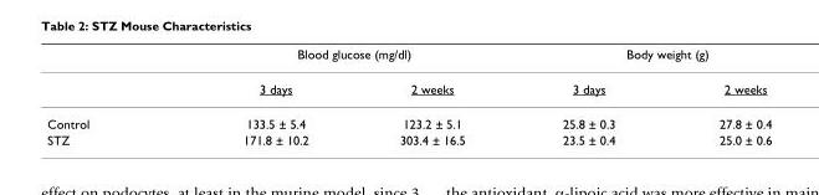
<table><thead><tr><td rowspan="2"></td><td colspan="2">Blood glucose (mg/dl)</td><td colspan="2">Body weight (g)</td></tr><tr><td>3 days</td><td>2 weeks</td><td>3 days</td><td>2 weeks</td></tr></thead><tbody><tr><td>Control</td><td>133.5 ± 5.4</td><td>123.2 ± 5.1</td><td>25.8 ± 0.3</td><td>27.8 ± 0.4</td></tr><tr><td>STZ</td><td>171.8 ± 10.2</td><td>303.4 ± 16.5</td><td>23.5 ± 0.4</td><td>25.0 ± 0.6</td></tr></tbody></table>